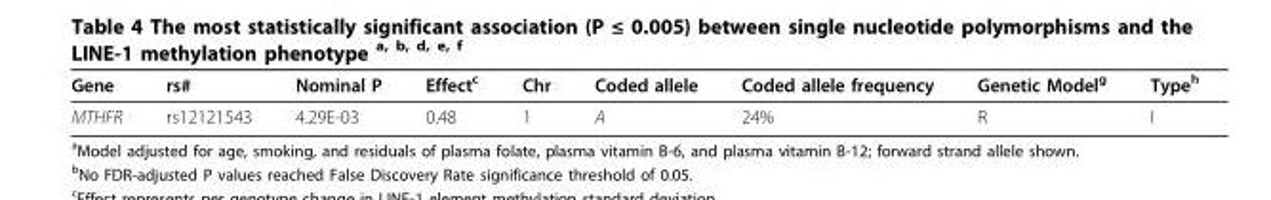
<table><thead><tr><td>Gene</td><td>rs#</td><td>Nominal P</td><td>Effect<sup>c</sup></td><td>Chr</td><td>Coded allele</td><td>Coded allele frequency</td><td>Genetic Model<sup>g</sup></td><td>Type<sup>h</sup></td></tr></thead><tbody><tr><td>MTHFR</td><td>rs12121543</td><td>4.29E-03</td><td>0.48</td><td>1</td><td>A</td><td>24%</td><td>R</td><td>I</td></tr></tbody></table>